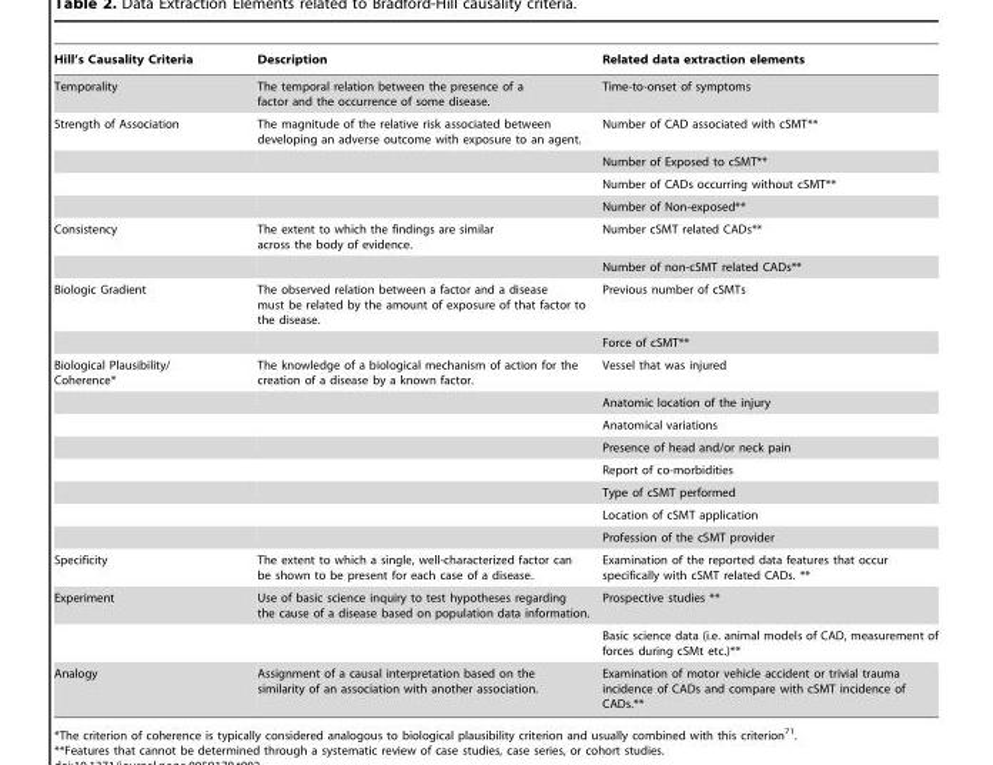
<table><thead><tr><td>Hill’s Causality Criteria</td><td>Description</td><td>Related data extraction elements</td></tr></thead><tbody><tr><td>Temporality</td><td>The temporal relation between the presence of a factor and the occurrence of some disease.</td><td>Time-to-onset of symptoms</td></tr><tr><td rowspan="4">Strength of Association</td><td>The magnitude of the relative risk associated between developing an adverse outcome with exposure to an agent.</td><td>Number of CAD associated with cSMT**</td></tr><tr><td></td><td>Number of Exposed to cSMT**</td></tr><tr><td></td><td>Number of CADs occurring without cSMT**</td></tr><tr><td></td><td>Number of Non-exposed**</td></tr><tr><td rowspan="2">Consistency</td><td>The extent to which the findings are similar across the body of evidence.</td><td>Number cSMT related CADs**</td></tr><tr><td></td><td>Number of non-cSMT related CADs**</td></tr><tr><td rowspan="2">Biologic Gradient</td><td>The observed relation between a factor and a disease must be related by the amount of exposure of that factor to the disease.</td><td>Previous number of cSMTs</td></tr><tr><td></td><td>Force of cSMT**</td></tr><tr><td rowspan="8">Biological Plausibility/ Coherence*</td><td>The knowledge of a biological mechanism of action for the creation of a disease by a known factor.</td><td>Vessel that was injured</td></tr><tr><td></td><td>Anatomic location of the injury</td></tr><tr><td></td><td>Anatomical variations</td></tr><tr><td></td><td>Presence of head and/or neck pain</td></tr><tr><td></td><td>Report of co-morbidities</td></tr><tr><td></td><td>Type of cSMT performed</td></tr><tr><td></td><td>Location of cSMT application</td></tr><tr><td></td><td>Profession of the cSMT provider</td></tr><tr><td>Specificity</td><td>The extent to which a single, well-characterized factor can be shown to be present for each case of a disease.</td><td>Examination of the reported data features that occur specifically with cSMT related CADs. **</td></tr><tr><td rowspan="2">Experiment</td><td>Use of basic science inquiry to test hypotheses regarding the cause of a disease based on population data information.</td><td>Prospective studies **</td></tr><tr><td></td><td>Basic science data (i.e. animal models of CAD, measurement of forces during cSMt etc.)**</td></tr><tr><td>Analogy</td><td>Assignment of a causal interpretation based on the similarity of an association with another association.</td><td>Examination of motor vehicle accident or trivial trauma incidence of CADs and compare with cSMT incidence of CADs.**</td></tr></tbody></table>